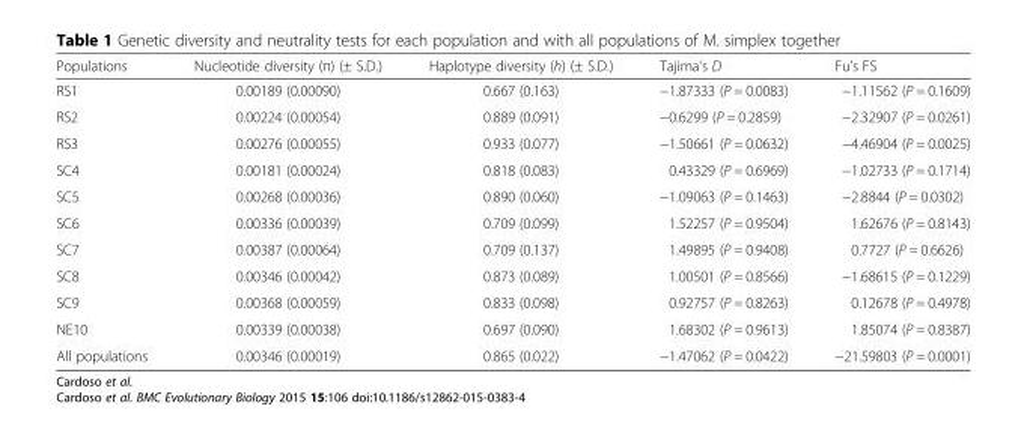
<table><thead><tr><td>Populations</td><td>Nucleotide diversity (π) (± S.D.)</td><td>Haplotype diversity (h) (± S.D.)</td><td>Tajima&#x27;s D</td><td>Fu&#x27;s FS</td></tr></thead><tbody><tr><td>RS1</td><td>0.00189 (0.00090)</td><td>0.667 (0.163)</td><td>−1.87333 (P = 0.0083)</td><td>−1.11562 (P = 0.1609)</td></tr><tr><td>RS2</td><td>0.00224 (0.00054)</td><td>0.889 (0.091)</td><td>−0.6299 (P = 0.2859)</td><td>−2.32907 (P = 0.0261)</td></tr><tr><td>RS3</td><td>0.00276 (0.00055)</td><td>0.933 (0.077)</td><td>−1.50661 (P = 0.0632)</td><td>−4.46904 (P = 0.0025)</td></tr><tr><td>SC4</td><td>0.00181 (0.00024)</td><td>0.818 (0.083)</td><td>0.43329 (P = 0.6969)</td><td>−1.02733 (P = 0.1714)</td></tr><tr><td>SC5</td><td>0.00268 (0.00036)</td><td>0.890 (0.060)</td><td>−1.09063 (P = 0.1463)</td><td>−2.8844 (P = 0.0302)</td></tr><tr><td>SC6</td><td>0.00336 (0.00039)</td><td>0.709 (0.099)</td><td>1.52257 (P = 0.9504)</td><td>1.62676 (P = 0.8143)</td></tr><tr><td>SC7</td><td>0.00387 (0.00064)</td><td>0.709 (0.137)</td><td>1.49895 (P = 0.9408)</td><td>0.7727 (P = 0.6626)</td></tr><tr><td>SC8</td><td>0.00346 (0.00042)</td><td>0.873 (0.089)</td><td>1.00501 (P = 0.8566)</td><td>−1.68615 (P = 0.1229)</td></tr><tr><td>SC9</td><td>0.00368 (0.00059)</td><td>0.833 (0.098)</td><td>0.92757 (P = 0.8263)</td><td>0.12678 (P = 0.4978)</td></tr><tr><td>NE10</td><td>0.00339 (0.00038)</td><td>0.697 (0.090)</td><td>1.68302 (P = 0.9613)</td><td>1.85074 (P = 0.8387)</td></tr><tr><td>All populations</td><td>0.00346 (0.00019)</td><td>0.865 (0.022)</td><td>−1.47062 (P = 0.0422)</td><td>−21.59803 (P = 0.0001)</td></tr></tbody></table>